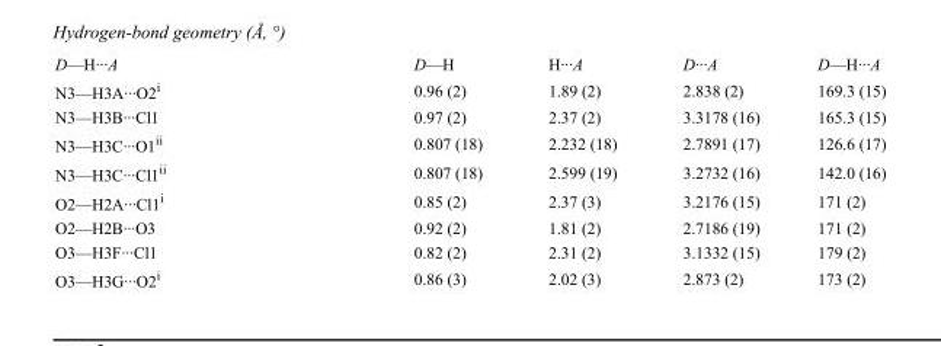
<table><tbody><tr><td>D—H···A</td><td>D—H</td><td>H···A</td><td>D···A</td><td>D—H···A</td></tr><tr><td>N3—H3A···O2<sup>i</sup></td><td>0.96 (2)</td><td>1.89 (2)</td><td>2.838 (2)</td><td>169.3 (15)</td></tr><tr><td>N3—H3B···Cl1</td><td>0.97 (2)</td><td>2.37 (2)</td><td>3.3178 (16)</td><td>165.3 (15)</td></tr><tr><td>N3—H3C···O1<sup>ii</sup></td><td>0.807 (18)</td><td>2.232 (18)</td><td>2.7891 (17)</td><td>126.6 (17)</td></tr><tr><td>N3—H3C···Cl1<sup>ii</sup></td><td>0.807 (18)</td><td>2.599 (19)</td><td>3.2732 (16)</td><td>142.0 (16)</td></tr><tr><td>O2—H2A···Cl1<sup>i</sup></td><td>0.85 (2)</td><td>2.37 (3)</td><td>3.2176 (15)</td><td>171 (2)</td></tr><tr><td>O2—H2B···O3</td><td>0.92 (2)</td><td>1.81 (2)</td><td>2.7186 (19)</td><td>171 (2)</td></tr><tr><td>O3—H3F···Cl1</td><td>0.82 (2)</td><td>2.31 (2)</td><td>3.1332 (15)</td><td>179 (2)</td></tr><tr><td>O3—H3G···O2<sup>i</sup></td><td>0.86 (3)</td><td>2.02 (3)</td><td>2.873 (2)</td><td>173 (2)</td></tr></tbody></table>